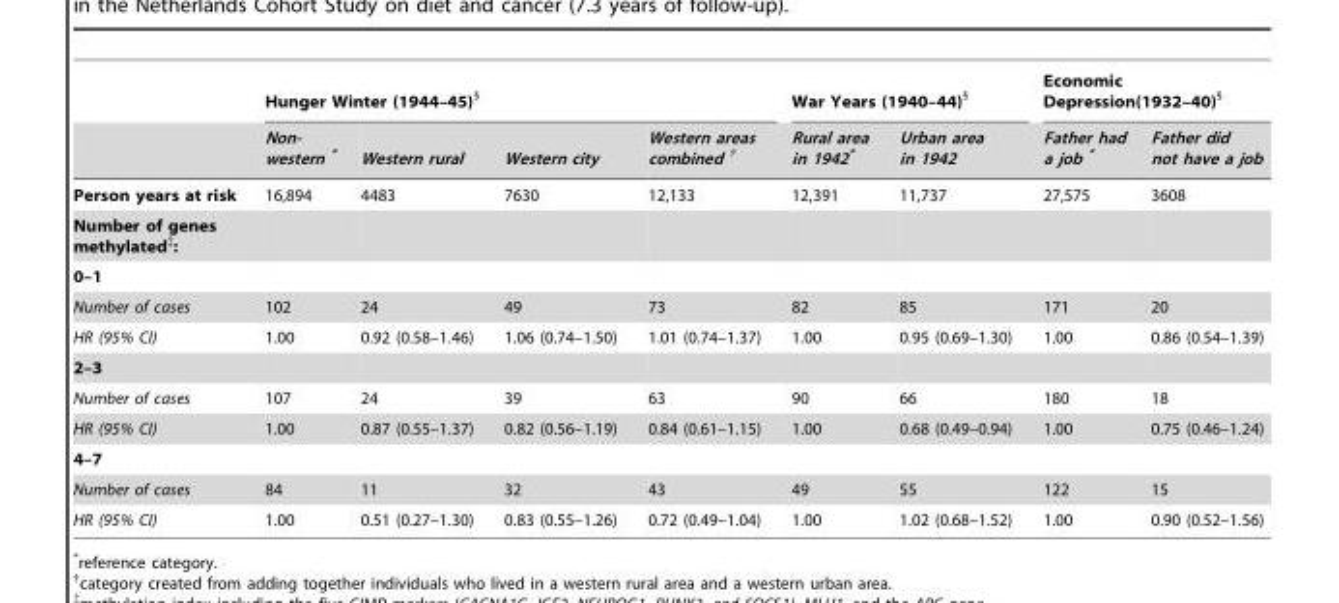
<table><thead><tr><td rowspan="2"></td><td colspan="4">Hunger Winter (1944–45)§</td><td colspan="2">War Years (1940–44)§</td><td colspan="2">Economic Depression(1932–40)§</td></tr><tr><td>Non- western *</td><td>Western rural</td><td>Western city</td><td>Western areas combined †</td><td>Rural area in 1942*</td><td>Urban area in 1942</td><td>Father had a job *</td><td>Father did not have a job</td></tr></thead><tbody><tr><td>Person years at risk</td><td>16,894</td><td>4483</td><td>7630</td><td>12,133</td><td>12,391</td><td>11,737</td><td>27,575</td><td>3608</td></tr><tr><td colspan="9">Number of genes methylated‡:</td></tr><tr><td colspan="9">0–1</td></tr><tr><td>Number of cases</td><td>102</td><td>24</td><td>49</td><td>73</td><td>82</td><td>85</td><td>171</td><td>20</td></tr><tr><td>HR (95% CI)</td><td>1.00</td><td>0.92 (0.58–1.46)</td><td>1.06 (0.74–1.50)</td><td>1.01 (0.74–1.37)</td><td>1.00</td><td>0.95 (0.69–1.30)</td><td>1.00</td><td>0.86 (0.54–1.39)</td></tr><tr><td colspan="9">2–3</td></tr><tr><td>Number of cases</td><td>107</td><td>24</td><td>39</td><td>63</td><td>90</td><td>66</td><td>180</td><td>18</td></tr><tr><td>HR (95% CI)</td><td>1.00</td><td>0.87 (0.55–1.37)</td><td>0.82 (0.56–1.19)</td><td>0.84 (0.61–1.15)</td><td>1.00</td><td>0.68 (0.49–0.94)</td><td>1.00</td><td>0.75 (0.46–1.24)</td></tr><tr><td colspan="9">4–7</td></tr><tr><td>Number of cases</td><td>84</td><td>11</td><td>32</td><td>43</td><td>49</td><td>55</td><td>122</td><td>15</td></tr><tr><td>HR (95% CI)</td><td>1.00</td><td>0.51 (0.27–1.30)</td><td>0.83 (0.55–1.26)</td><td>0.72 (0.49–1.04)</td><td>1.00</td><td>1.02 (0.68–1.52)</td><td>1.00</td><td>0.90 (0.52–1.56)</td></tr></tbody></table>